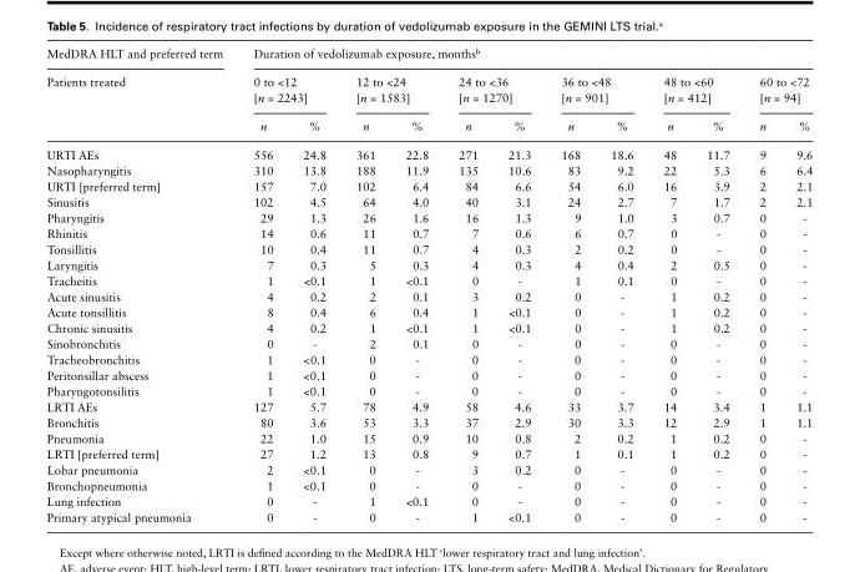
<table><thead><tr><td rowspan="3">MedDRA HLT and preferred term Patients treated</td><td colspan="12">Duration of vedolizumab exposure, months<sup>b</sup></td></tr><tr><td colspan="2">0 to &lt;12 [n = 2243]</td><td colspan="2">12 to &lt;24 [n = 1583]</td><td colspan="2">24 to &lt;36 [n = 1270]</td><td colspan="2">36 to &lt;48 [n = 901]</td><td colspan="2">48 to &lt;60 [n = 412]</td><td colspan="2">60 to &lt;72 [n = 94]</td></tr><tr><td>n</td><td>%</td><td>n</td><td>%</td><td>n</td><td>%</td><td>n</td><td>%</td><td>n</td><td>%</td><td>n</td><td>%</td></tr></thead><tbody><tr><td>URTI AEs</td><td>556</td><td>24.8</td><td>361</td><td>22.8</td><td>271</td><td>21.3</td><td>168</td><td>18.6</td><td>48</td><td>11.7</td><td>9</td><td>9.6</td></tr><tr><td>Nasopharyngitis</td><td>310</td><td>13.8</td><td>188</td><td>11.9</td><td>135</td><td>10.6</td><td>83</td><td>9.2</td><td>22</td><td>5.3</td><td>6</td><td>6.4</td></tr><tr><td>URTI [preferred term]</td><td>157</td><td>7.0</td><td>102</td><td>6.4</td><td>84</td><td>6.6</td><td>54</td><td>6.0</td><td>16</td><td>3.9</td><td>2</td><td>2.1</td></tr><tr><td>Sinusitis</td><td>102</td><td>4.5</td><td>64</td><td>4.0</td><td>40</td><td>3.1</td><td>24</td><td>2.7</td><td>7</td><td>1.7</td><td>2</td><td>2.1</td></tr><tr><td>Pharyngitis</td><td>29</td><td>1.3</td><td>26</td><td>1.6</td><td>16</td><td>1.3</td><td>9</td><td>1.0</td><td>3</td><td>0.7</td><td>0</td><td>-</td></tr><tr><td>Rhinitis</td><td>14</td><td>0.6</td><td>11</td><td>0.7</td><td>7</td><td>0.6</td><td>6</td><td>0.7</td><td>0</td><td>-</td><td>0</td><td>-</td></tr><tr><td>Tonsillitis</td><td>10</td><td>0.4</td><td>11</td><td>0.7</td><td>4</td><td>0.3</td><td>2</td><td>0.2</td><td>0</td><td>-</td><td>0</td><td>-</td></tr><tr><td>Laryngitis</td><td>7</td><td>0.3</td><td>5</td><td>0.3</td><td>4</td><td>0.3</td><td>4</td><td>0.4</td><td>2</td><td>0.5</td><td>0</td><td>-</td></tr><tr><td>Tracheitis</td><td>1</td><td>&lt;0.1</td><td>1</td><td>&lt;0.1</td><td>0</td><td>-</td><td>1</td><td>0.1</td><td>0</td><td>-</td><td>0</td><td>-</td></tr><tr><td>Acute sinusitis</td><td>4</td><td>0.2</td><td>2</td><td>0.1</td><td>3</td><td>0.2</td><td>0</td><td>-</td><td>1</td><td>0.2</td><td>0</td><td>-</td></tr><tr><td>Acute tonsillitis</td><td>8</td><td>0.4</td><td>6</td><td>0.4</td><td>1</td><td>&lt;0.1</td><td>0</td><td>-</td><td>1</td><td>0.2</td><td>0</td><td>-</td></tr><tr><td>Chronic sinusitis</td><td>4</td><td>0.2</td><td>1</td><td>&lt;0.1</td><td>1</td><td>&lt;0.1</td><td>0</td><td>-</td><td>1</td><td>0.2</td><td>0</td><td>-</td></tr><tr><td>Sinobronchitis</td><td>0</td><td>-</td><td>2</td><td>0.1</td><td>0</td><td>-</td><td>0</td><td>-</td><td>0</td><td>-</td><td>0</td><td>-</td></tr><tr><td>Tracheobronchitis</td><td>1</td><td>&lt;0.1</td><td>0</td><td>-</td><td>0</td><td>-</td><td>0</td><td>-</td><td>0</td><td>-</td><td>0</td><td>-</td></tr><tr><td>Peritonsillar abscess</td><td>1</td><td>&lt;0.1</td><td>0</td><td>-</td><td>0</td><td>-</td><td>0</td><td>-</td><td>0</td><td>-</td><td>0</td><td>-</td></tr><tr><td>Pharyngotonsilitis</td><td>1</td><td>&lt;0.1</td><td>0</td><td>-</td><td>0</td><td>-</td><td>0</td><td>-</td><td>0</td><td>-</td><td>0</td><td>-</td></tr><tr><td>LRTI AEs</td><td>127</td><td>5.7</td><td>78</td><td>4.9</td><td>58</td><td>4.6</td><td>33</td><td>3.7</td><td>14</td><td>3.4</td><td>1</td><td>1.1</td></tr><tr><td>Bronchitis</td><td>80</td><td>3.6</td><td>53</td><td>3.3</td><td>37</td><td>2.9</td><td>30</td><td>3.3</td><td>12</td><td>2.9</td><td>1</td><td>1.1</td></tr><tr><td>Pneumonia</td><td>22</td><td>1.0</td><td>15</td><td>0.9</td><td>10</td><td>0.8</td><td>2</td><td>0.2</td><td>1</td><td>0.2</td><td>0</td><td>-</td></tr><tr><td>LRTI [preferred term]</td><td>27</td><td>1.2</td><td>13</td><td>0.8</td><td>9</td><td>0.7</td><td>1</td><td>0.1</td><td>1</td><td>0.2</td><td>0</td><td>-</td></tr><tr><td>Lobar pneumonia</td><td>2</td><td>&lt;0.1</td><td>0</td><td>-</td><td>3</td><td>0.2</td><td>0</td><td>-</td><td>0</td><td>-</td><td>0</td><td>-</td></tr><tr><td>Bronchopneumonia</td><td>1</td><td>&lt;0.1</td><td>0</td><td>-</td><td>0</td><td>-</td><td>0</td><td>-</td><td>0</td><td>-</td><td>0</td><td>-</td></tr><tr><td>Lung infection</td><td>0</td><td>-</td><td>1</td><td>&lt;0.1</td><td>0</td><td>-</td><td>0</td><td>-</td><td>0</td><td>-</td><td>0</td><td>-</td></tr><tr><td>Primary atypical pneumonia</td><td>0</td><td>-</td><td>0</td><td>-</td><td>1</td><td>&lt;0.1</td><td>0</td><td>-</td><td>0</td><td>-</td><td>0</td><td>-</td></tr></tbody></table>